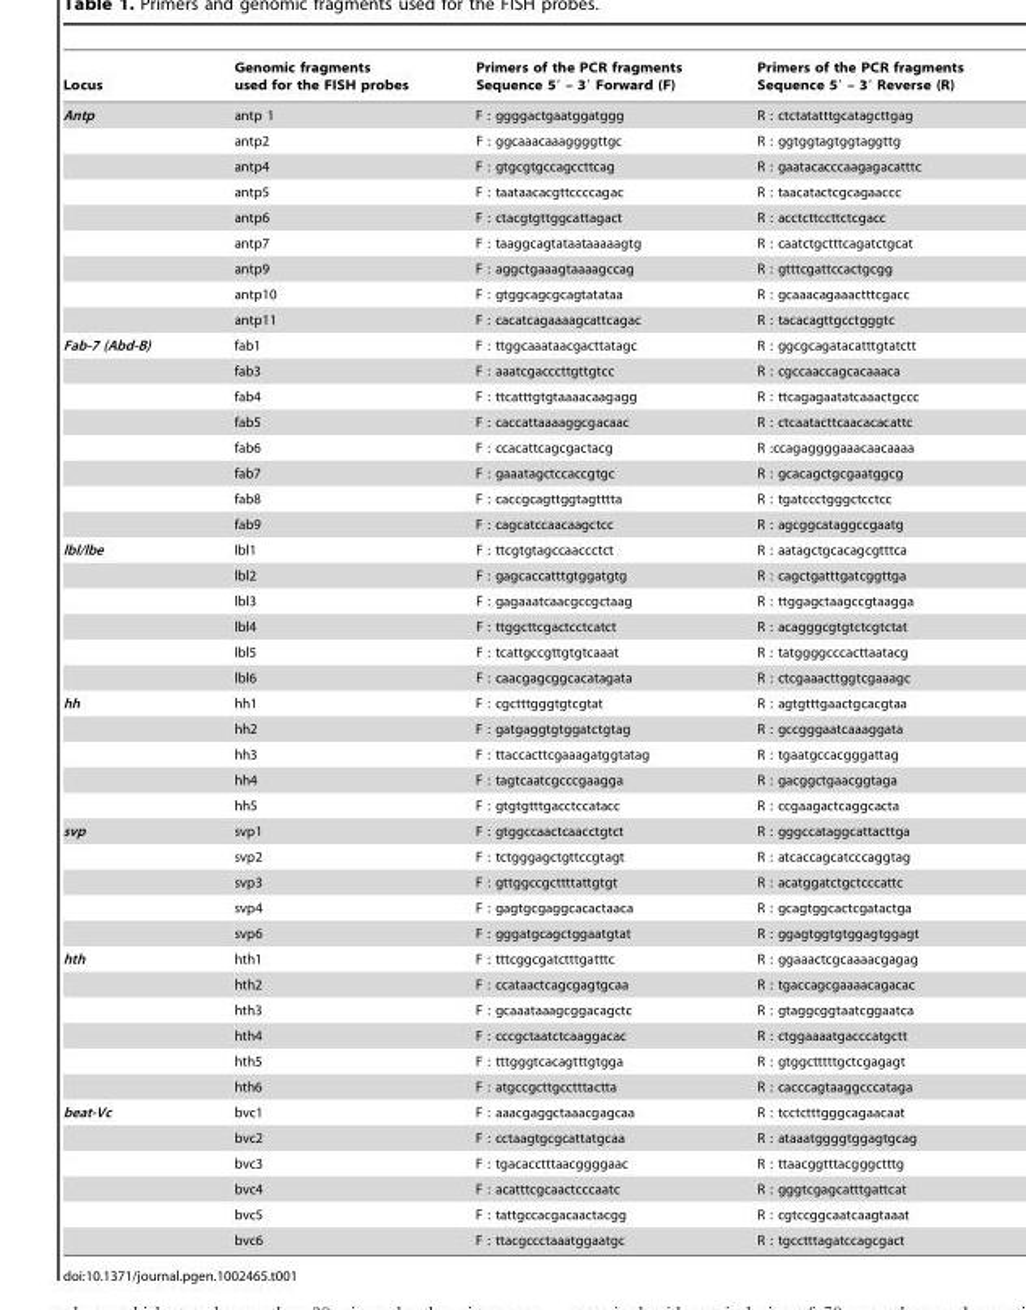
<table><thead><tr><td>Locus</td><td>Genomic fragments used for the FISH probes</td><td>Primers of the PCR fragments Sequence 5′ – 3′ Forward (F)</td><td>Primers of the PCR fragments Sequence 5′ – 3′ Reverse (R)</td></tr></thead><tbody><tr><td rowspan="9">Antp</td><td>antp 1</td><td>F : ggggactgaatggatggg</td><td>R : ctctatatttgcatagcttgag</td></tr><tr><td>antp2</td><td>F : ggcaaacaaaggggttgc</td><td>R : ggtggtagtggtaggttg</td></tr><tr><td>antp4</td><td>F : gtgcgtgccagccttcag</td><td>R : gaatacacccaagagacatttc</td></tr><tr><td>antp5</td><td>F : taataacacgttccccagac</td><td>R : taacatactcgcagaaccc</td></tr><tr><td>antp6</td><td>F : ctacgtgttggcattagact</td><td>R : acctcttccttctcgacc</td></tr><tr><td>antp7</td><td>F : taaggcagtataataaaaagtg</td><td>R : caatctgctttcagatctgcat</td></tr><tr><td>antp9</td><td>F : aggctgaaagtaaaagccag</td><td>R : gtttcgattccactgcgg</td></tr><tr><td>antp10</td><td>F : gtggcagcgcagtatataa</td><td>R : gcaaacagaaactttcgacc</td></tr><tr><td>antp11</td><td>F : cacatcagaaaagcattcagac</td><td>R : tacacagttgcctgggtc</td></tr><tr><td rowspan="8">Fab-7 (Abd-B)</td><td>fab1</td><td>F : ttggcaaataacgacttatagc</td><td>R : ggcgcagatacatttgtatctt</td></tr><tr><td>fab3</td><td>F : aaatcgacccttgttgtcc</td><td>R : cgccaaccagcacaaaca</td></tr><tr><td>fab4</td><td>F : ttcatttgtgtaaaacaagagg</td><td>R : ttcagagaatatcaaactgccc</td></tr><tr><td>fab5</td><td>F : caccattaaaaggcgacaac</td><td>R : ctcaatacttcaacacacattc</td></tr><tr><td>fab6</td><td>F : ccacattcagcgactacg</td><td>R :ccagaggggaaacaacaaaa</td></tr><tr><td>fab7</td><td>F : gaaatagctccaccgtgc</td><td>R : gcacagctgcgaatggcg</td></tr><tr><td>fab8</td><td>F : caccgcagttggtagtttta</td><td>R : tgatccctgggctcctcc</td></tr><tr><td>fab9</td><td>F : cagcatccaacaagctcc</td><td>R : agcggcataggccgaatg</td></tr><tr><td rowspan="6">lbl/lbe</td><td>lbl1</td><td>F : ttcgtgtagccaaccctct</td><td>R : aatagctgcacagcgtttca</td></tr><tr><td>lbl2</td><td>F : gagcaccatttgtggatgtg</td><td>R : cagctgatttgatcggttga</td></tr><tr><td>lbl3</td><td>F : gagaaatcaacgccgctaag</td><td>R : ttggagctaagccgtaagga</td></tr><tr><td>lbl4</td><td>F : ttggcttcgactcctcatct</td><td>R : acagggcgtgtctcgtctat</td></tr><tr><td>lbl5</td><td>F : tcattgccgttgtgtcaaat</td><td>R : tatggggcccacttaatacg</td></tr><tr><td>lbl6</td><td>F : caacgagcggcacatagata</td><td>R : ctcgaaacttggtcgaaagc</td></tr><tr><td rowspan="5">hh</td><td>hh1</td><td>F : cgctttgggtgtcgtat</td><td>R : agtgtttgaactgcacgtaa</td></tr><tr><td>hh2</td><td>F : gatgaggtgtggatctgtag</td><td>R : gccgggaatcaaaggata</td></tr><tr><td>hh3</td><td>F : ttaccacttcgaaagatggtatag</td><td>R : tgaatgccacgggattag</td></tr><tr><td>hh4</td><td>F : tagtcaatcgcccgaagga</td><td>R : gacggctgaacggtaga</td></tr><tr><td>hh5</td><td>F : gtgtgtttgacctccatacc</td><td>R : ccgaagactcaggcacta</td></tr><tr><td rowspan="5">svp</td><td>svp1</td><td>F : gtggccaactcaacctgtct</td><td>R : gggccataggcattacttga</td></tr><tr><td>svp2</td><td>F : tctgggagctgttccgtagt</td><td>R : atcaccagcatcccaggtag</td></tr><tr><td>svp3</td><td>F : gttggccgcttttattgtgt</td><td>R : acatggatctgctcccattc</td></tr><tr><td>svp4</td><td>F : gagtgcgaggcacactaaca</td><td>R : gcagtggcactcgatactga</td></tr><tr><td>svp6</td><td>F : gggatgcagctggaatgtat</td><td>R : ggagtggtgtggagtggagt</td></tr><tr><td rowspan="6">hth</td><td>hth1</td><td>F : tttcggcgatctttgatttc</td><td>R : ggaaactcgcaaaacgagag</td></tr><tr><td>hth2</td><td>F : ccataactcagcgagtgcaa</td><td>R : tgaccagcgaaaacagacac</td></tr><tr><td>hth3</td><td>F : gcaaataaagcggacagctc</td><td>R : gtaggcggtaatcggaatca</td></tr><tr><td>hth4</td><td>F : cccgctaatctcaaggacac</td><td>R : ctggaaaatgacccatgctt</td></tr><tr><td>hth5</td><td>F : tttgggtcacagtttgtgga</td><td>R : gtggctttttgctcgagagt</td></tr><tr><td>hth6</td><td>F : atgccgcttgcctttactta</td><td>R : cacccagtaaggcccataga</td></tr><tr><td rowspan="6">beat-Vc</td><td>bvc1</td><td>F : aaacgaggctaaacgagcaa</td><td>R : tcctctttgggcagaacaat</td></tr><tr><td>bvc2</td><td>F : cctaagtgcgcattatgcaa</td><td>R : ataaatggggtggagtgcag</td></tr><tr><td>bvc3</td><td>F : tgacacctttaacggggaac</td><td>R : ttaacggtttacgggctttg</td></tr><tr><td>bvc4</td><td>F : acatttcgcaactcccaatc</td><td>R : gggtcgagcatttgattcat</td></tr><tr><td>bvc5</td><td>F : tattgccacgacaactacgg</td><td>R : cgtccggcaatcaagtaaat</td></tr><tr><td>bvc6</td><td>F : ttacgccctaaatggaatgc</td><td>R : tgcctttagatccagcgact</td></tr></tbody></table>